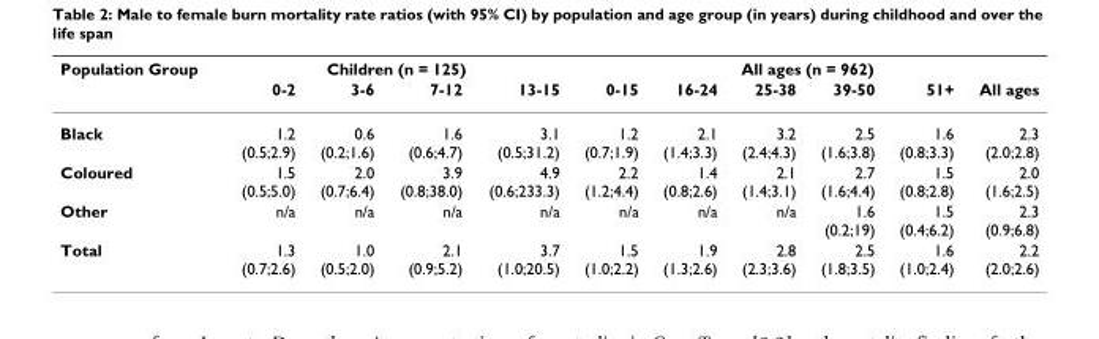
<table><thead><tr><td rowspan="2">Population Group</td><td colspan="4">Children (n = 125)</td><td colspan="6">All ages (n = 962)</td></tr><tr><td>0-2</td><td>3-6</td><td>7-12</td><td>13-15</td><td>0-15</td><td>16-24</td><td>25-38</td><td>39-50</td><td>51+</td><td>All ages</td></tr></thead><tbody><tr><td>Black</td><td>1.2 (0.5;2.9)</td><td>0.6 (0.2;1.6)</td><td>1.6 (0.6;4.7)</td><td>3.1 (0.5;31.2)</td><td>1.2 (0.7;1.9)</td><td>2.1 (1.4;3.3)</td><td>3.2 (2.4;4.3)</td><td>2.5 (1.6;3.8)</td><td>1.6 (0.8;3.3)</td><td>2.3 (2.0;2.8)</td></tr><tr><td>Coloured</td><td>1.5 (0.5;5.0)</td><td>2.0 (0.7;6.4)</td><td>3.9 (0.8;38.0)</td><td>4.9 (0.6;233.3)</td><td>2.2 (1.2;4.4)</td><td>1.4 (0.8;2.6)</td><td>2.1 (1.4;3.1)</td><td>2.7 (1.6;4.4)</td><td>1.5 (0.8;2.8)</td><td>2.0 (1.6;2.5)</td></tr><tr><td>Other</td><td>n/a</td><td>n/a</td><td>n/a</td><td>n/a</td><td>n/a</td><td>n/a</td><td>n/a</td><td>1.6 (0.2;19)</td><td>1.5 (0.4;6.2)</td><td>2.3 (0.9;6.8)</td></tr><tr><td>Total</td><td>1.3 (0.7;2.6)</td><td>1.0 (0.5;2.0)</td><td>2.1 (0.9;5.2)</td><td>3.7 (1.0;20.5)</td><td>1.5 (1.0;2.2)</td><td>1.9 (1.3;2.6)</td><td>2.8 (2.3;3.6)</td><td>2.5 (1.8;3.5)</td><td>1.6 (1.0;2.4)</td><td>2.2 (2.0;2.6)</td></tr></tbody></table>